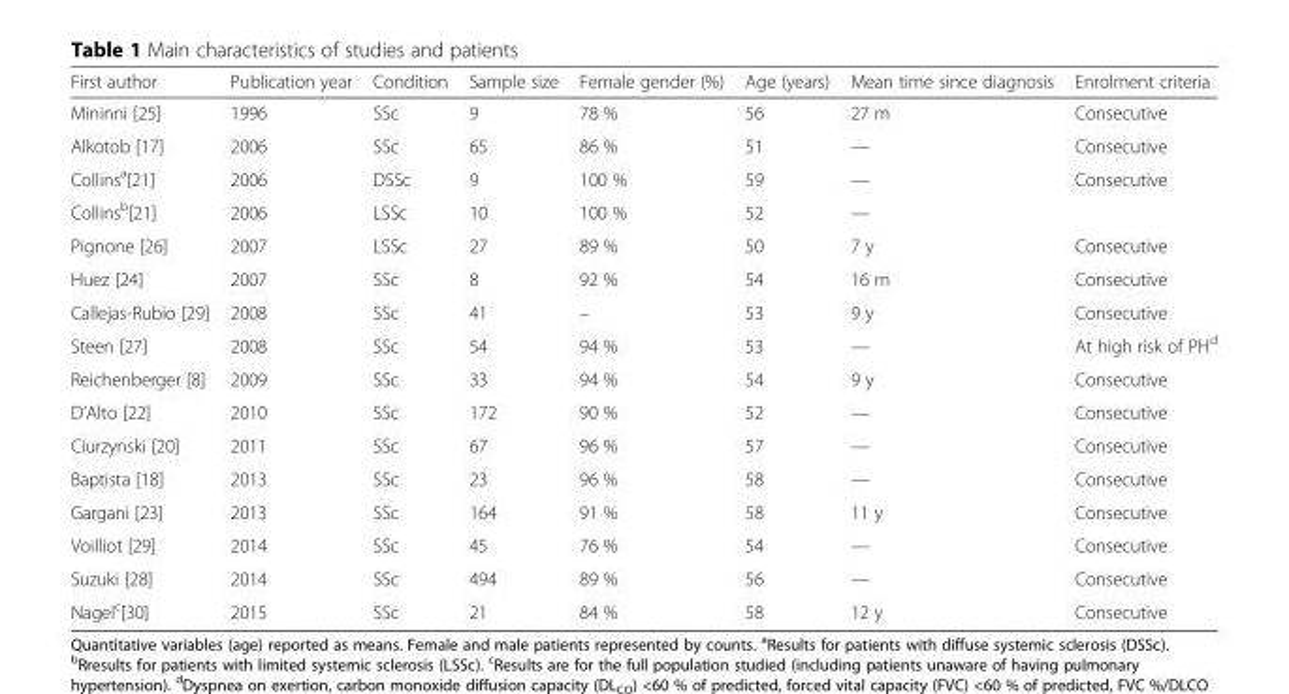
<table><thead><tr><td>First author</td><td>Publication year</td><td>Condition</td><td>Sample size</td><td>Female gender (%)</td><td>Age (years)</td><td>Mean time since diagnosis</td><td>Enrolment criteria</td></tr></thead><tbody><tr><td>Mininni [25]</td><td>1996</td><td>SSc</td><td>9</td><td>78 %</td><td>56</td><td>27 m</td><td>Consecutive</td></tr><tr><td>Alkotob [17]</td><td>2006</td><td>SSc</td><td>65</td><td>86 %</td><td>51</td><td>—</td><td>Consecutive</td></tr><tr><td>Collins<sup>a</sup>[21]</td><td>2006</td><td>DSSc</td><td>9</td><td>100 %</td><td>59</td><td>—</td><td rowspan="2">Consecutive</td></tr><tr><td>Collins<sup>b</sup>[21]</td><td>2006</td><td>LSSc</td><td>10</td><td>100 %</td><td>52</td><td>—</td></tr><tr><td>Pignone [26]</td><td>2007</td><td>LSSc</td><td>27</td><td>89 %</td><td>50</td><td>7 y</td><td>Consecutive</td></tr><tr><td>Huez [24]</td><td>2007</td><td>SSc</td><td>8</td><td>92 %</td><td>54</td><td>16 m</td><td>Consecutive</td></tr><tr><td>Callejas-Rubio [29]</td><td>2008</td><td>SSc</td><td>41</td><td>–</td><td>53</td><td>9 y</td><td>Consecutive</td></tr><tr><td>Steen [27]</td><td>2008</td><td>SSc</td><td>54</td><td>94 %</td><td>53</td><td>—</td><td>At high risk of PH<sup>d</sup></td></tr><tr><td>Reichenberger [8]</td><td>2009</td><td>SSc</td><td>33</td><td>94 %</td><td>54</td><td>9 y</td><td>Consecutive</td></tr><tr><td>D’Alto [22]</td><td>2010</td><td>SSc</td><td>172</td><td>90 %</td><td>52</td><td>—</td><td>Consecutive</td></tr><tr><td>Ciurzynski [20]</td><td>2011</td><td>SSc</td><td>67</td><td>96 %</td><td>57</td><td>—</td><td>Consecutive</td></tr><tr><td>Baptista [18]</td><td>2013</td><td>SSc</td><td>23</td><td>96 %</td><td>58</td><td>—</td><td>Consecutive</td></tr><tr><td>Gargani [23]</td><td>2013</td><td>SSc</td><td>164</td><td>91 %</td><td>58</td><td>11 y</td><td>Consecutive</td></tr><tr><td>Voilliot [29]</td><td>2014</td><td>SSc</td><td>45</td><td>76 %</td><td>54</td><td>—</td><td>Consecutive</td></tr><tr><td>Suzuki [28]</td><td>2014</td><td>SSc</td><td>494</td><td>89 %</td><td>56</td><td>—</td><td>Consecutive</td></tr><tr><td>Nagel<sup>c</sup>[30]</td><td>2015</td><td>SSc</td><td>21</td><td>84 %</td><td>58</td><td>12 y</td><td>Consecutive</td></tr></tbody></table>